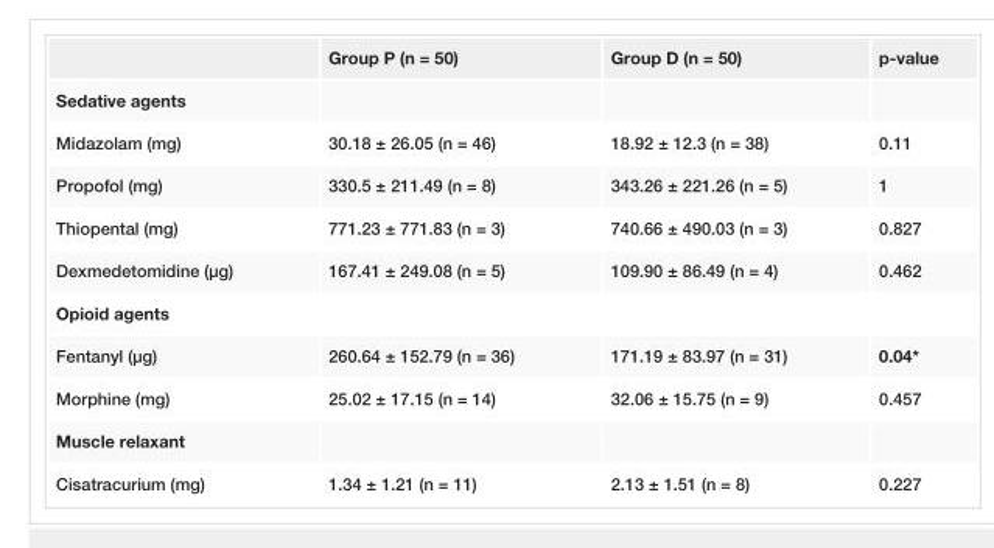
<table><thead><tr><td></td><td>Group P (n = 50)</td><td>Group D (n = 50)</td><td>p-value</td></tr></thead><tbody><tr><td colspan="4">Sedative agents</td></tr><tr><td>Midazolam (mg)</td><td>30.18 ± 26.05 (n = 46)</td><td>18.92 ± 12.3 (n = 38)</td><td>0.11</td></tr><tr><td>Propofol (mg)</td><td>330.5 ± 211.49 (n = 8)</td><td>343.26 ± 221.26 (n = 5)</td><td>1</td></tr><tr><td>Thiopental (mg)</td><td>771.23 ± 771.83 (n = 3)</td><td>740.66 ± 490.03 (n = 3)</td><td>0.827</td></tr><tr><td>Dexmedetomidine (µg)</td><td>167.41 ± 249.08 (n = 5)</td><td>109.90 ± 86.49 (n = 4)</td><td>0.462</td></tr><tr><td colspan="4">Opioid agents</td></tr><tr><td>Fentanyl (µg)</td><td>260.64 ± 152.79 (n = 36)</td><td>171.19 ± 83.97 (n = 31)</td><td>0.04*</td></tr><tr><td>Morphine (mg)</td><td>25.02 ± 17.15 (n = 14)</td><td>32.06 ± 15.75 (n = 9)</td><td>0.457</td></tr><tr><td colspan="4">Muscle relaxant</td></tr><tr><td>Cisatracurium (mg)</td><td>1.34 ± 1.21 (n = 11)</td><td>2.13 ± 1.51 (n = 8)</td><td>0.227</td></tr></tbody></table>